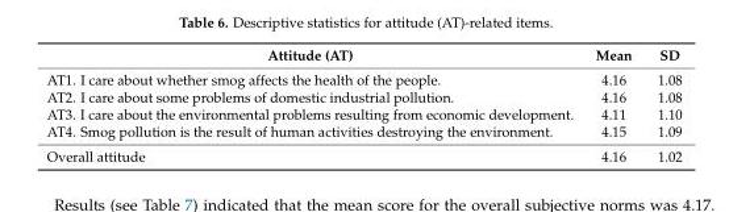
<table><thead><tr><td>Attitude (AT)</td><td>Mean</td><td>SD</td></tr></thead><tbody><tr><td>AT1. I care about whether smog affects the health of the people.</td><td>4.16</td><td>1.08</td></tr><tr><td>AT2. I care about some problems of domestic industrial pollution.</td><td>4.16</td><td>1.08</td></tr><tr><td>AT3. I care about the environmental problems resulting from economic development.</td><td>4.11</td><td>1.10</td></tr><tr><td>AT4. Smog pollution is the result of human activities destroying the environment.</td><td>4.15</td><td>1.09</td></tr><tr><td>Overall attitude</td><td>4.16</td><td>1.02</td></tr></tbody></table>